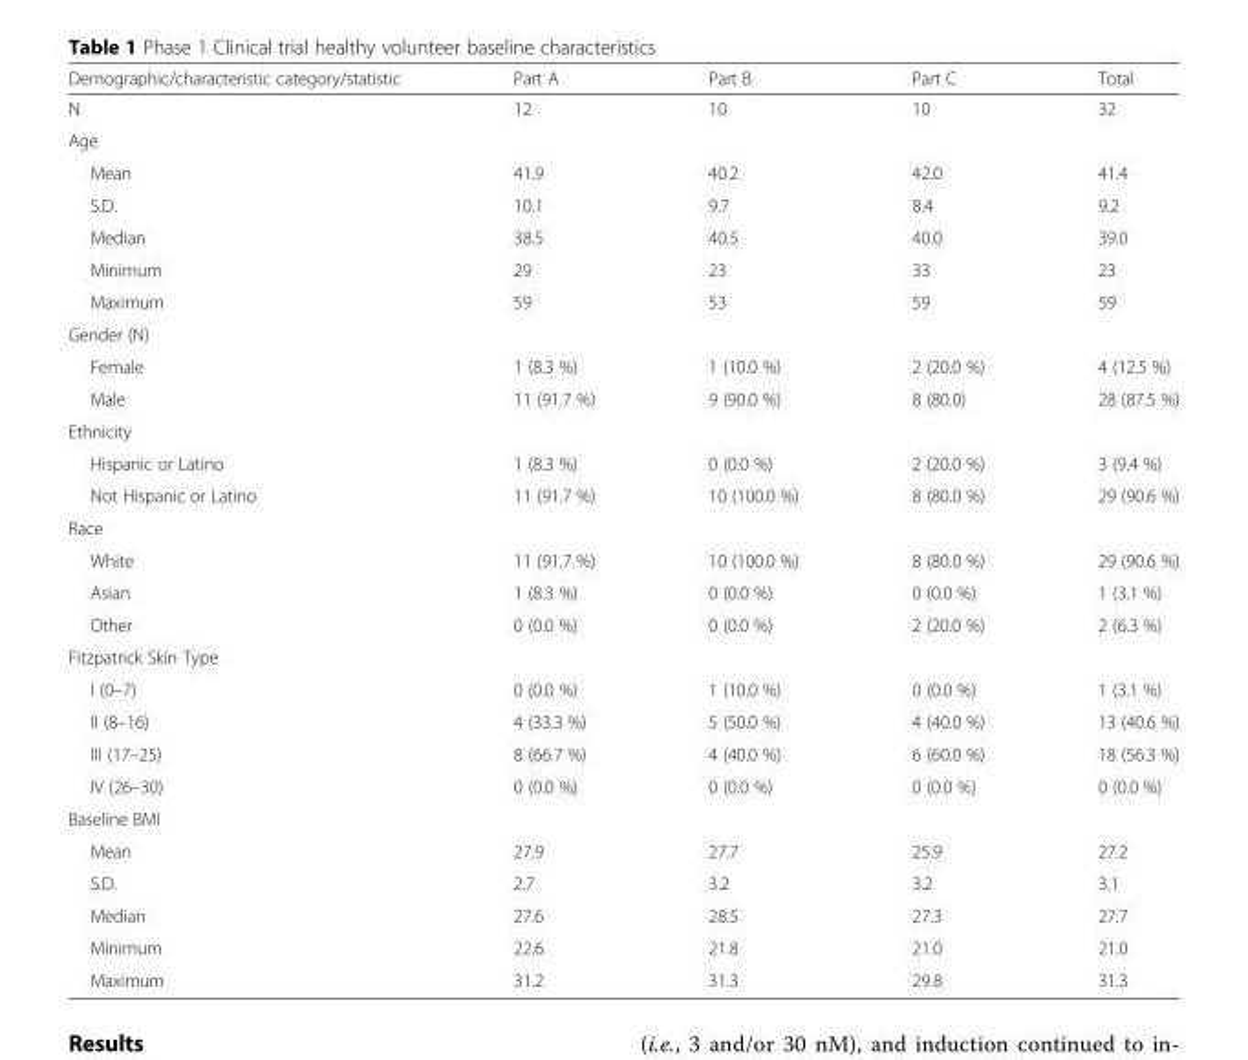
<table><thead><tr><td>Demographic/characteristic category/statistic</td><td>Part A</td><td>Part B</td><td>Part C</td><td>Total</td></tr></thead><tbody><tr><td>N</td><td>12</td><td>10</td><td>10</td><td>32</td></tr><tr><td colspan="5">Age</td></tr><tr><td>Mean</td><td>41.9</td><td>40.2</td><td>42.0</td><td>41.4</td></tr><tr><td>S.D.</td><td>10.1</td><td>9.7</td><td>8.4</td><td>9.2</td></tr><tr><td>Median</td><td>38.5</td><td>40.5</td><td>40.0</td><td>39.0</td></tr><tr><td>Minimum</td><td>29</td><td>23</td><td>33</td><td>23</td></tr><tr><td>Maximum</td><td>59</td><td>53</td><td>59</td><td>59</td></tr><tr><td colspan="5">Gender (N)</td></tr><tr><td>Female</td><td>1 (8.3 %)</td><td>1 (10.0 %)</td><td>2 (20.0 %)</td><td>4 (12.5 %)</td></tr><tr><td>Male</td><td>11 (91.7 %)</td><td>9 (90.0 %)</td><td>8 (80.0)</td><td>28 (87.5 %)</td></tr><tr><td colspan="5">Ethnicity</td></tr><tr><td>Hispanic or Latino</td><td>1 (8.3 %)</td><td>0 (0.0 %)</td><td>2 (20.0 %)</td><td>3 (9.4 %)</td></tr><tr><td>Not Hispanic or Latino</td><td>11 (91.7 %)</td><td>10 (100.0 %)</td><td>8 (80.0 %)</td><td>29 (90.6 %)</td></tr><tr><td colspan="5">Race</td></tr><tr><td>White</td><td>11 (91.7 %)</td><td>10 (100.0 %)</td><td>8 (80.0 %)</td><td>29 (90.6 %)</td></tr><tr><td>Asian</td><td>1 (8.3 %)</td><td>0 (0.0 %)</td><td>0 (0.0 %)</td><td>1 (3.1 %)</td></tr><tr><td>Other</td><td>0 (0.0 %)</td><td>0 (0.0 %)</td><td>2 (20.0 %)</td><td>2 (6.3 %)</td></tr><tr><td colspan="5">Fitzpatrick Skin Type</td></tr><tr><td>I (0–7)</td><td>0 (0.0 %)</td><td>1 (10.0 %)</td><td>0 (0.0 %)</td><td>1 (3.1 %)</td></tr><tr><td>II (8–16)</td><td>4 (33.3 %)</td><td>5 (50.0 %)</td><td>4 (40.0 %)</td><td>13 (40.6 %)</td></tr><tr><td>III (17–25)</td><td>8 (66.7 %)</td><td>4 (40.0 %)</td><td>6 (60.0 %)</td><td>18 (56.3 %)</td></tr><tr><td>IV (26–30)</td><td>0 (0.0 %)</td><td>0 (0.0 %)</td><td>0 (0.0 %)</td><td>0 (0.0 %)</td></tr><tr><td colspan="5">Baseline BMI</td></tr><tr><td>Mean</td><td>27.9</td><td>27.7</td><td>25.9</td><td>27.2</td></tr><tr><td>S.D.</td><td>2.7</td><td>3.2</td><td>3.2</td><td>3.1</td></tr><tr><td>Median</td><td>27.6</td><td>28.5</td><td>27.3</td><td>27.7</td></tr><tr><td>Minimum</td><td>22.6</td><td>21.8</td><td>21.0</td><td>21.0</td></tr><tr><td>Maximum</td><td>31.2</td><td>31.3</td><td>29.8</td><td>31.3</td></tr></tbody></table>